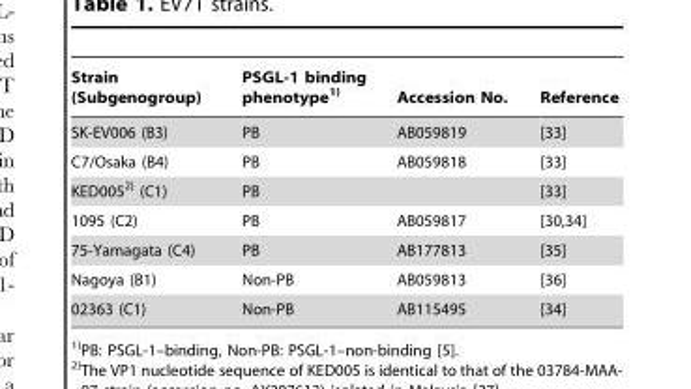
<table><thead><tr><td>Strain (Subgenogroup)</td><td>PSGL-1 binding phenotype1)</td><td>Accession No.</td><td>Reference</td></tr></thead><tbody><tr><td>SK-EV006 (B3)</td><td>PB</td><td>AB059819</td><td>[33]</td></tr><tr><td>C7/Osaka (B4)</td><td>PB</td><td>AB059818</td><td>[33]</td></tr><tr><td>KED0052) (C1)</td><td>PB</td><td></td><td>[33]</td></tr><tr><td>1095 (C2)</td><td>PB</td><td>AB059817</td><td>[30,34]</td></tr><tr><td>75-Yamagata (C4)</td><td>PB</td><td>AB177813</td><td>[35]</td></tr><tr><td>Nagoya (B1)</td><td>Non-PB</td><td>AB059813</td><td>[36]</td></tr><tr><td>02363 (C1)</td><td>Non-PB</td><td>AB115495</td><td>[34]</td></tr></tbody></table>